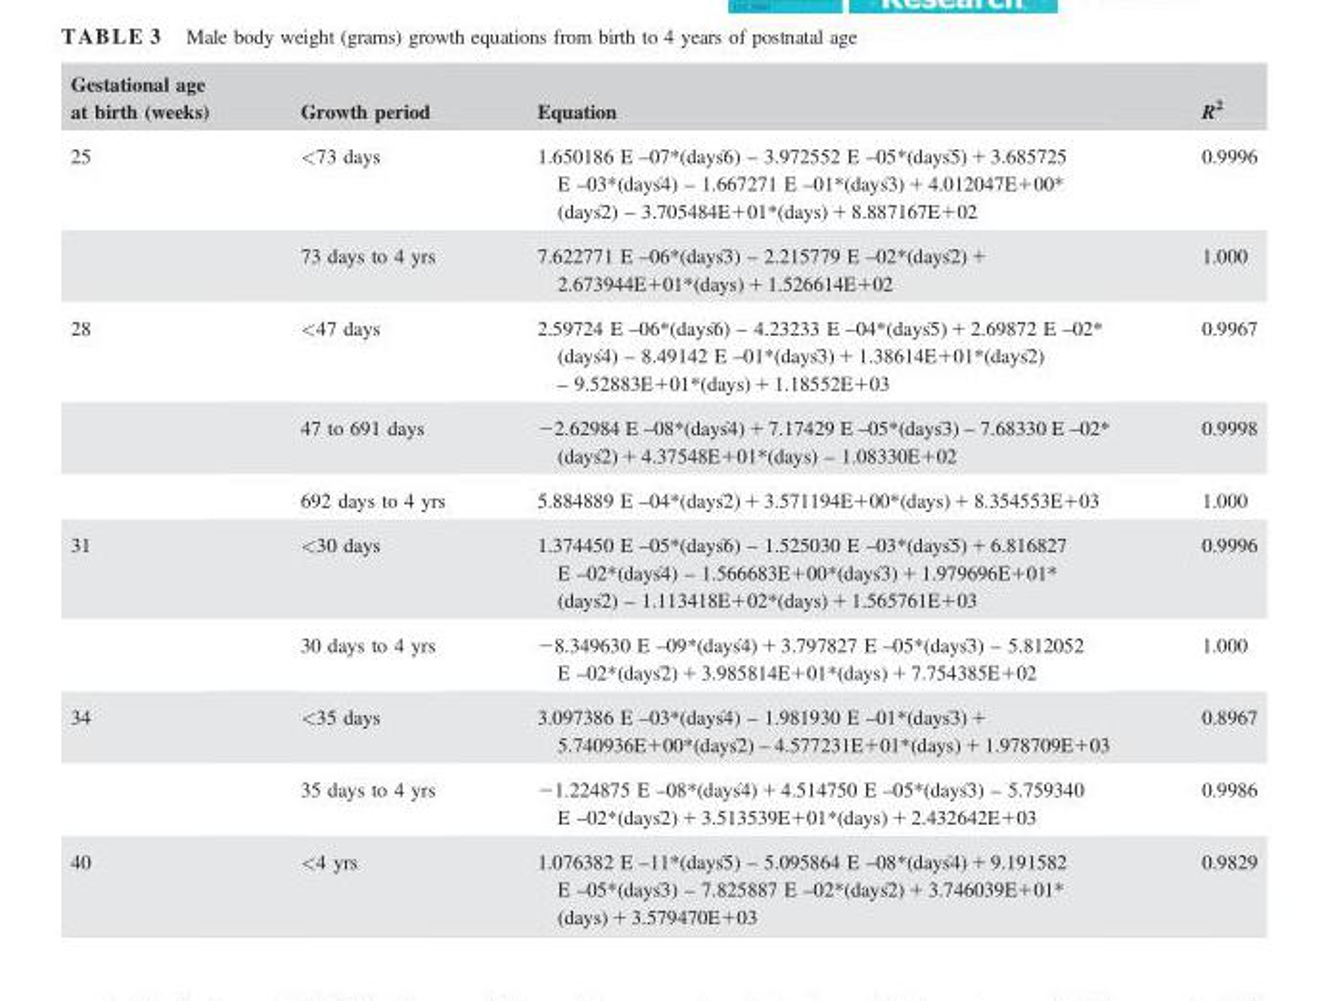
<table><thead><tr><td>Gestational age at birth (weeks)</td><td>Growth period</td><td>Equation</td><td>R<sup>2</sup></td></tr></thead><tbody><tr><td rowspan="2">25</td><td>&lt;73 days</td><td>1.650186 E –07*(days^6) – 3.972552 E –05*(days^5) + 3.685725 E –03*(days^4) – 1.667271 E –01*(days^3) + 4.012047E+00* (days^2) – 3.705484E+01*(days) + 8.887167E+02</td><td>0.9996</td></tr><tr><td>73 days to 4 yrs</td><td>7.622771 E –06*(days^3) – 2.215779 E –02*(days^2) + 2.673944E+01*(days) + 1.526614E+02</td><td>1.000</td></tr><tr><td rowspan="3">28</td><td>&lt;47 days</td><td>2.59724 E –06*(days^6) – 4.23233 E –04*(days^5) + 2.69872 E –02* (days^4) – 8.49142 E –01*(days^3) + 1.38614E+01*(days^2) – 9.52883E+01*(days) + 1.18552E+03</td><td>0.9967</td></tr><tr><td>47 to 691 days</td><td>−2.62984 E –08*(days^4) + 7.17429 E –05*(days^3) – 7.68330 E –02* (days^2) + 4.37548E+01*(days) – 1.08330E+02</td><td>0.9998</td></tr><tr><td>692 days to 4 yrs</td><td>5.884889 E –04*(days^2) + 3.571194E+00*(days) + 8.354553E+03</td><td>1.000</td></tr><tr><td rowspan="2">31</td><td>&lt;30 days</td><td>1.374450 E –05*(days^6) – 1.525030 E –03*(days^5) + 6.816827 E –02*(days^4) – 1.566683E+00*(days^3) + 1.979696E+01* (days^2) – 1.113418E+02*(days) + 1.565761E+03</td><td>0.9996</td></tr><tr><td>30 days to 4 yrs</td><td>−8.349630 E –09*(days^4) + 3.797827 E –05*(days^3) – 5.812052 E –02*(days^2) + 3.985814E+01*(days) + 7.754385E+02</td><td>1.000</td></tr><tr><td rowspan="2">34</td><td>&lt;35 days</td><td>3.097386 E –03*(days^4) – 1.981930 E –01*(days^3) + 5.740936E+00*(days^2) – 4.577231E+01*(days) + 1.978709E+03</td><td>0.8967</td></tr><tr><td>35 days to 4 yrs</td><td>−1.224875 E –08*(days^4) + 4.514750 E –05*(days^3) – 5.759340 E –02*(days^2) + 3.513539E+01*(days) + 2.432642E+03</td><td>0.9986</td></tr><tr><td>40</td><td>&lt;4 yrs</td><td>1.076382 E –11*(days^5) – 5.095864 E –08*(days^4) + 9.191582 E –05*(days^3) – 7.825887 E –02*(days^2) + 3.746039E+01* (days) + 3.579470E+03</td><td>0.9829</td></tr></tbody></table>